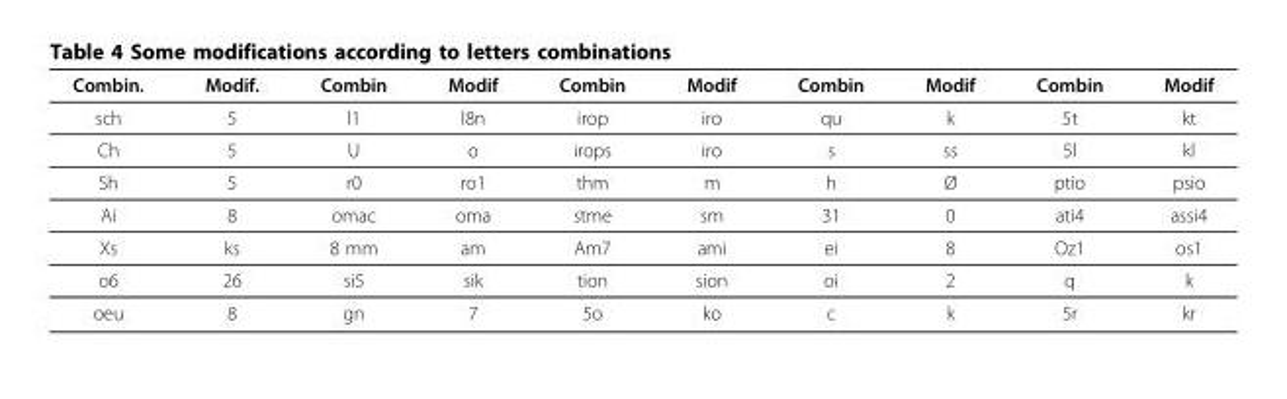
<table><thead><tr><td>Combin.</td><td>Modif.</td><td>Combin</td><td>Modif</td><td>Combin</td><td>Modif</td><td>Combin</td><td>Modif</td><td>Combin</td><td>Modif</td></tr></thead><tbody><tr><td>sch</td><td>5</td><td>l1</td><td>l8n</td><td>irop</td><td>iro</td><td>qu</td><td>k</td><td>5t</td><td>kt</td></tr><tr><td>Ch</td><td>5</td><td>U</td><td>o</td><td>irops</td><td>iro</td><td>s</td><td>ss</td><td>5l</td><td>kl</td></tr><tr><td>Sh</td><td>5</td><td>r0</td><td>ro1</td><td>thm</td><td>m</td><td>h</td><td>Ø</td><td>ptio</td><td>psio</td></tr><tr><td>Ai</td><td>8</td><td>omac</td><td>oma</td><td>stme</td><td>sm</td><td>31</td><td>0</td><td>ati4</td><td>assi4</td></tr><tr><td>Xs</td><td>ks</td><td>8 mm</td><td>am</td><td>Am7</td><td>ami</td><td>ei</td><td>8</td><td>Oz1</td><td>os1</td></tr><tr><td>o6</td><td>26</td><td>si5</td><td>sik</td><td>tion</td><td>sion</td><td>oi</td><td>2</td><td>q</td><td>k</td></tr><tr><td>oeu</td><td>8</td><td>gn</td><td>7</td><td>5o</td><td>ko</td><td>c</td><td>k</td><td>5r</td><td>kr</td></tr></tbody></table>